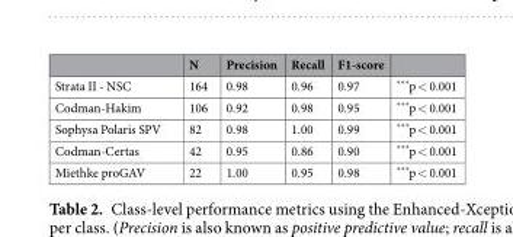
<table><thead><tr><td></td><td>N</td><td>Precision</td><td>Recall</td><td>F1-score</td><td></td></tr></thead><tbody><tr><td>Strata II - NSC</td><td>164</td><td>0.98</td><td>0.96</td><td>0.97</td><td>***p &lt; 0.001</td></tr><tr><td>Codman-Hakim</td><td>106</td><td>0.92</td><td>0.98</td><td>0.95</td><td>***p &lt; 0.001</td></tr><tr><td>Sophysa Polaris SPV</td><td>82</td><td>0.98</td><td>1.00</td><td>0.99</td><td>***p &lt; 0.001</td></tr><tr><td>Codman-Certas</td><td>42</td><td>0.95</td><td>0.86</td><td>0.90</td><td>***p &lt; 0.001</td></tr><tr><td>Miethke proGAV</td><td>22</td><td>1.00</td><td>0.95</td><td>0.98</td><td>***p &lt; 0.001</td></tr></tbody></table>